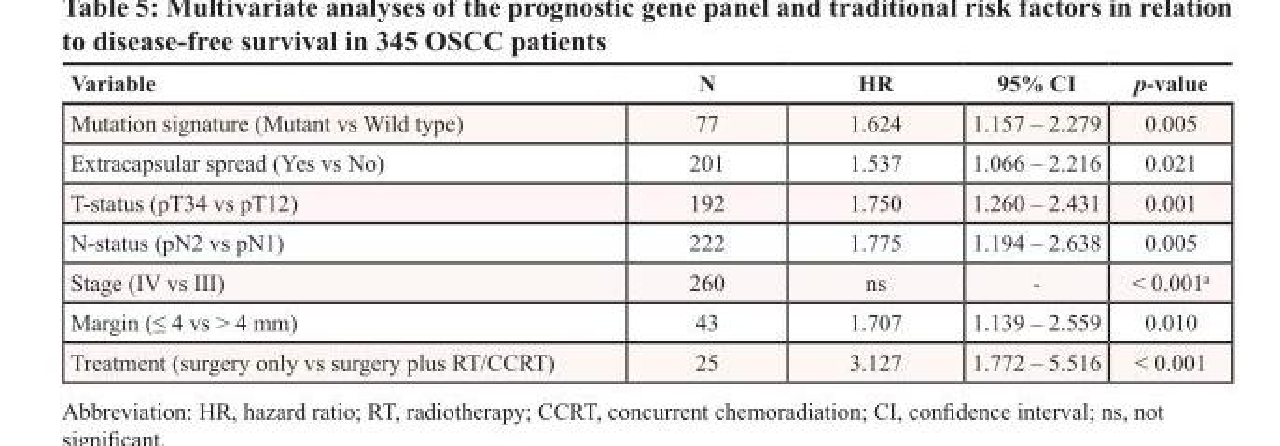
<table><thead><tr><td>Variable</td><td>N</td><td>HR</td><td>95% CI</td><td>p-value</td></tr></thead><tbody><tr><td>Mutation signature (Mutant vs Wild type)</td><td>77</td><td>1.624</td><td>1.157 – 2.279</td><td>0.005</td></tr><tr><td>Extracapsular spread (Yes vs No)</td><td>201</td><td>1.537</td><td>1.066 – 2.216</td><td>0.021</td></tr><tr><td>T-status (pT34 vs pT12)</td><td>192</td><td>1.750</td><td>1.260 – 2.431</td><td>0.001</td></tr><tr><td>N-status (pN2 vs pN1)</td><td>222</td><td>1.775</td><td>1.194 – 2.638</td><td>0.005</td></tr><tr><td>Stage (IV vs III)</td><td>260</td><td>ns</td><td>-</td><td>&lt; 0.001<sup>a</sup></td></tr><tr><td>Margin (≤ 4 vs &gt; 4 mm)</td><td>43</td><td>1.707</td><td>1.139 – 2.559</td><td>0.010</td></tr><tr><td>Treatment (surgery only vs surgery plus RT/CCRT)</td><td>25</td><td>3.127</td><td>1.772 – 5.516</td><td>&lt; 0.001</td></tr></tbody></table>